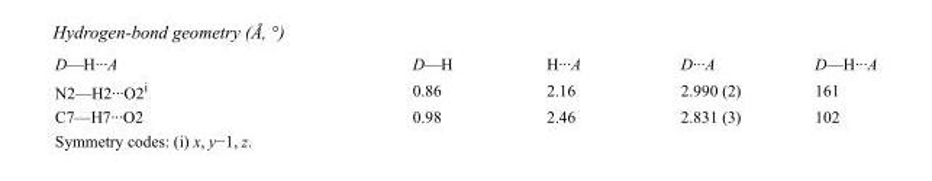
<table><tbody><tr><td>D—H···A</td><td>D—H</td><td>H···A</td><td>D···A</td><td>D—H···A</td></tr><tr><td>N2—H2···O2<sup>i</sup></td><td>0.86</td><td>2.16</td><td>2.990 (2)</td><td>161</td></tr><tr><td>C7—H7···O2</td><td>0.98</td><td>2.46</td><td>2.831 (3)</td><td>102</td></tr></tbody></table>